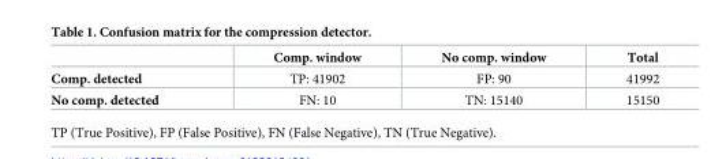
<table><thead><tr><td></td><td>Comp. window</td><td>No comp. window</td><td>Total</td></tr></thead><tbody><tr><td>Comp. detected</td><td>TP: 41902</td><td>FP: 90</td><td>41992</td></tr><tr><td>No comp. detected</td><td>FN: 10</td><td>TN: 15140</td><td>15150</td></tr></tbody></table>